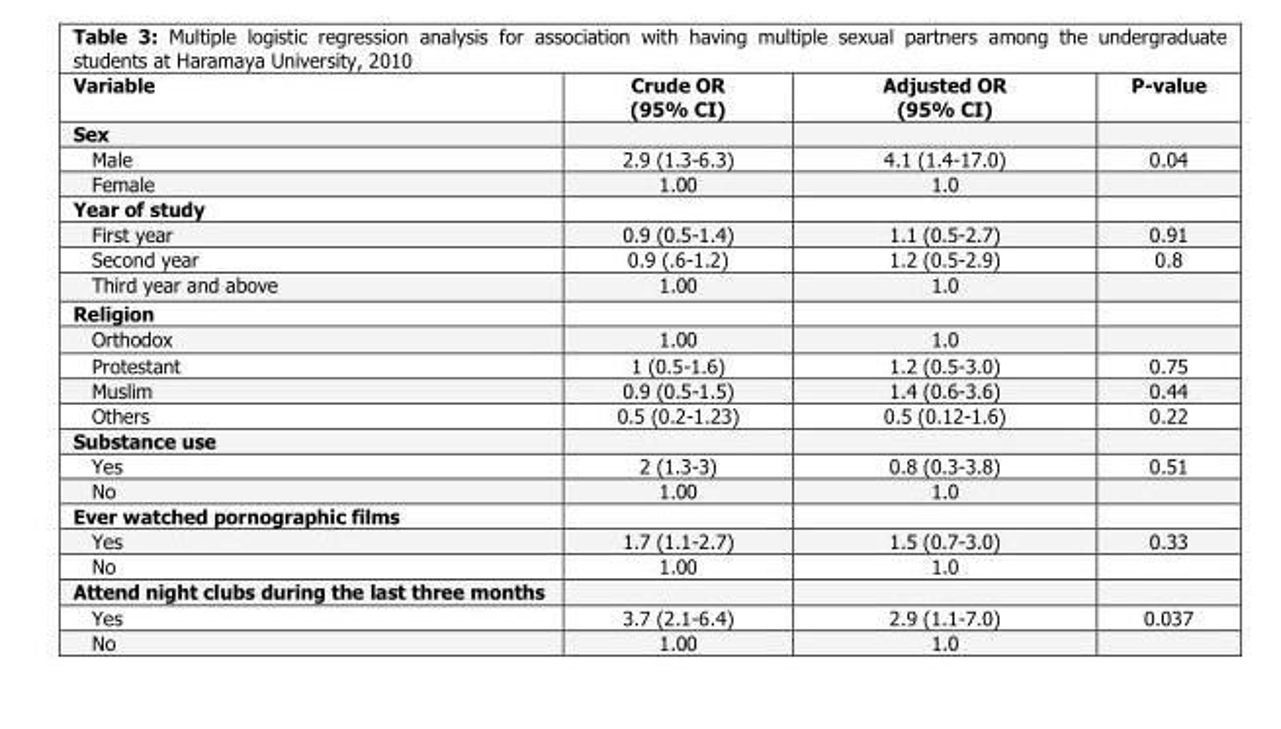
<table><thead><tr><td>Variable</td><td>Crude OR (95% CI)</td><td>Adjusted OR (95% CI)</td><td>P-value</td></tr></thead><tbody><tr><td colspan="4">Sex</td></tr><tr><td>Male</td><td>2.9 (1.3-6.3)</td><td>4.1 (1.4-17.0)</td><td>0.04</td></tr><tr><td>Female</td><td>1.00</td><td>1.0</td><td></td></tr><tr><td colspan="4">Year of study</td></tr><tr><td>First year</td><td>0.9 (0.5-1.4)</td><td>1.1 (0.5-2.7)</td><td>0.91</td></tr><tr><td>Second year</td><td>0.9 (.6-1.2)</td><td>1.2 (0.5-2.9)</td><td>0.8</td></tr><tr><td>Third year and above</td><td>1.00</td><td>1.0</td><td></td></tr><tr><td colspan="4">Religion</td></tr><tr><td>Orthodox</td><td>1.00</td><td>1.0</td><td></td></tr><tr><td>Protestant</td><td>1 (0.5-1.6)</td><td>1.2 (0.5-3.0)</td><td>0.75</td></tr><tr><td>Muslim</td><td>0.9 (0.5-1.5)</td><td>1.4 (0.6-3.6)</td><td>0.44</td></tr><tr><td>Others</td><td>0.5 (0.2-1.23)</td><td>0.5 (0.12-1.6)</td><td>0.22</td></tr><tr><td colspan="4">Substance use</td></tr><tr><td>Yes</td><td>2 (1.3-3)</td><td>0.8 (0.3-3.8)</td><td>0.51</td></tr><tr><td>No</td><td>1.00</td><td>1.0</td><td></td></tr><tr><td colspan="4">Ever watched pornographic films</td></tr><tr><td>Yes</td><td>1.7 (1.1-2.7)</td><td>1.5 (0.7-3.0)</td><td>0.33</td></tr><tr><td>No</td><td>1.00</td><td>1.0</td><td></td></tr><tr><td colspan="4">Attend night clubs during the last three months</td></tr><tr><td>Yes</td><td>3.7 (2.1-6.4)</td><td>2.9 (1.1-7.0)</td><td>0.037</td></tr><tr><td>No</td><td>1.00</td><td>1.0</td><td></td></tr></tbody></table>